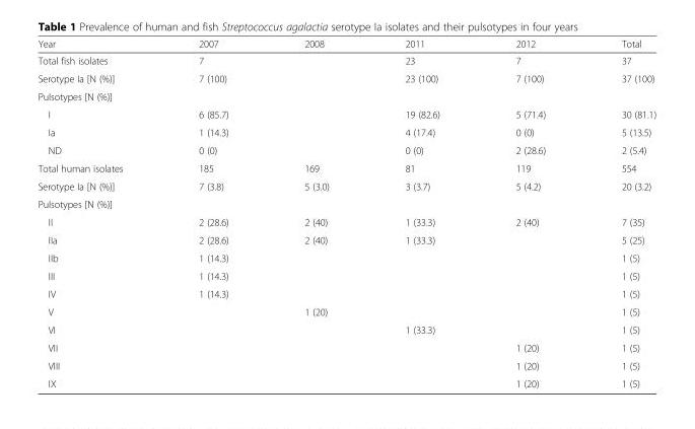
<table><thead><tr><td>Year</td><td>2007</td><td>2008</td><td>2011</td><td>2012</td><td>Total</td></tr></thead><tbody><tr><td>Total fish isolates</td><td>7</td><td></td><td>23</td><td>7</td><td>37</td></tr><tr><td>Serotype Ia [N (%)]</td><td>7 (100)</td><td></td><td>23 (100)</td><td>7 (100)</td><td>37 (100)</td></tr><tr><td colspan="6">Pulsotypes [N (%)]</td></tr><tr><td>I</td><td>6 (85.7)</td><td></td><td>19 (82.6)</td><td>5 (71.4)</td><td>30 (81.1)</td></tr><tr><td>Ia</td><td>1 (14.3)</td><td></td><td>4 (17.4)</td><td>0 (0)</td><td>5 (13.5)</td></tr><tr><td>ND</td><td>0 (0)</td><td></td><td>0 (0)</td><td>2 (28.6)</td><td>2 (5.4)</td></tr><tr><td>Total human isolates</td><td>185</td><td>169</td><td>81</td><td>119</td><td>554</td></tr><tr><td>Serotype Ia [N (%)]</td><td>7 (3.8)</td><td>5 (3.0)</td><td>3 (3.7)</td><td>5 (4.2)</td><td>20 (3.2)</td></tr><tr><td colspan="6">Pulsotypes [N (%)]</td></tr><tr><td>II</td><td>2 (28.6)</td><td>2 (40)</td><td>1 (33.3)</td><td>2 (40)</td><td>7 (35)</td></tr><tr><td>IIa</td><td>2 (28.6)</td><td>2 (40)</td><td>1 (33.3)</td><td></td><td>5 (25)</td></tr><tr><td>IIb</td><td>1 (14.3)</td><td></td><td></td><td></td><td>1 (5)</td></tr><tr><td>III</td><td>1 (14.3)</td><td></td><td></td><td></td><td>1 (5)</td></tr><tr><td>IV</td><td>1 (14.3)</td><td></td><td></td><td></td><td>1 (5)</td></tr><tr><td>V</td><td></td><td>1 (20)</td><td></td><td></td><td>1 (5)</td></tr><tr><td>VI</td><td></td><td></td><td>1 (33.3)</td><td></td><td>1 (5)</td></tr><tr><td>VII</td><td></td><td></td><td></td><td>1 (20)</td><td>1 (5)</td></tr><tr><td>VIII</td><td></td><td></td><td></td><td>1 (20)</td><td>1 (5)</td></tr><tr><td>IX</td><td></td><td></td><td></td><td>1 (20)</td><td>1 (5)</td></tr></tbody></table>